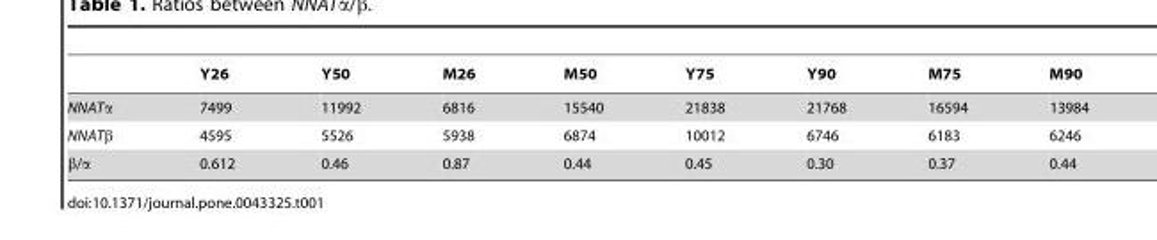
<table><thead><tr><td></td><td>Y26</td><td>Y50</td><td>M26</td><td>M50</td><td>Y75</td><td>Y90</td><td>M75</td><td>M90</td></tr></thead><tbody><tr><td>NNATα</td><td>7499</td><td>11992</td><td>6816</td><td>15540</td><td>21838</td><td>21768</td><td>16594</td><td>13984</td></tr><tr><td>NNATβ</td><td>4595</td><td>5526</td><td>5938</td><td>6874</td><td>10012</td><td>6746</td><td>6183</td><td>6246</td></tr><tr><td>β/α</td><td>0.612</td><td>0.46</td><td>0.87</td><td>0.44</td><td>0.45</td><td>0.30</td><td>0.37</td><td>0.44</td></tr></tbody></table>